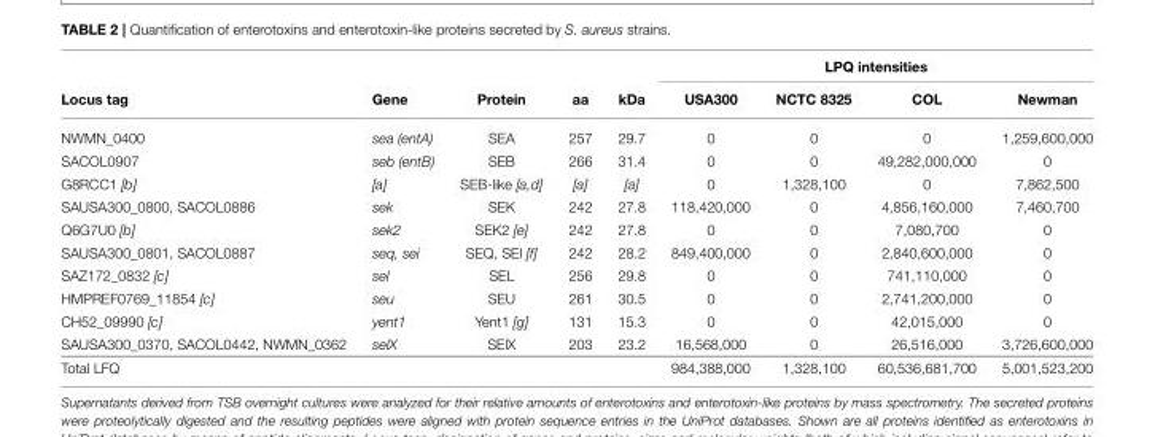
<table><thead><tr><td rowspan="2">Locus tag</td><td rowspan="2">Gene</td><td rowspan="2">Protein</td><td rowspan="2">aa</td><td rowspan="2">kDa</td><td colspan="4">LPQ intensities</td></tr><tr><td>USA300</td><td>NCTC 8325</td><td>COL</td><td>Newman</td></tr></thead><tbody><tr><td>NWMN_0400</td><td>sea (entA)</td><td>SEA</td><td>257</td><td>29.7</td><td>0</td><td>0</td><td>0</td><td>1,259,600,000</td></tr><tr><td>SACOL0907</td><td>seb (entB)</td><td>SEB</td><td>266</td><td>31.4</td><td>0</td><td>0</td><td>49,282,000,000</td><td>0</td></tr><tr><td>G8RCC1 [b]</td><td>[a]</td><td>SEB-like [a,d]</td><td>[a]</td><td>[a]</td><td>0</td><td>1,328,100</td><td>0</td><td>7,862,500</td></tr><tr><td>SAUSA300_0800, SACOL0886</td><td>sek</td><td>SEK</td><td>242</td><td>27.8</td><td>118,420,000</td><td>0</td><td>4,856,160,000</td><td>7,460,700</td></tr><tr><td>Q6G7U0 [b]</td><td>sek2</td><td>SEK2 [e]</td><td>242</td><td>27.8</td><td>0</td><td>0</td><td>7,080,700</td><td>0</td></tr><tr><td>SAUSA300_0801, SACOL0887</td><td>seq, sei</td><td>SEQ, SEI [f]</td><td>242</td><td>28.2</td><td>849,400,000</td><td>0</td><td>2,840,600,000</td><td>0</td></tr><tr><td>SAZ172_0832 [c]</td><td>sel</td><td>SEL</td><td>256</td><td>29.8</td><td>0</td><td>0</td><td>741,110,000</td><td>0</td></tr><tr><td>HMPREF0769_11854 [c]</td><td>seu</td><td>SEU</td><td>261</td><td>30.5</td><td>0</td><td>0</td><td>2,741,200,000</td><td>0</td></tr><tr><td>CH52_09990 [c]</td><td>yent1</td><td>Yent1 [g]</td><td>131</td><td>15.3</td><td>0</td><td>0</td><td>42,015,000</td><td>0</td></tr><tr><td>SAUSA300_0370, SACOL0442, NWMN_0362</td><td>selX</td><td>SElX</td><td>203</td><td>23.2</td><td>16,568,000</td><td>0</td><td>26,516,000</td><td>3,726,600,000</td></tr><tr><td>Total LFQ</td><td></td><td></td><td></td><td></td><td>984,388,000</td><td>1,328,100</td><td>60,536,681,700</td><td>5,001,523,200</td></tr></tbody></table>